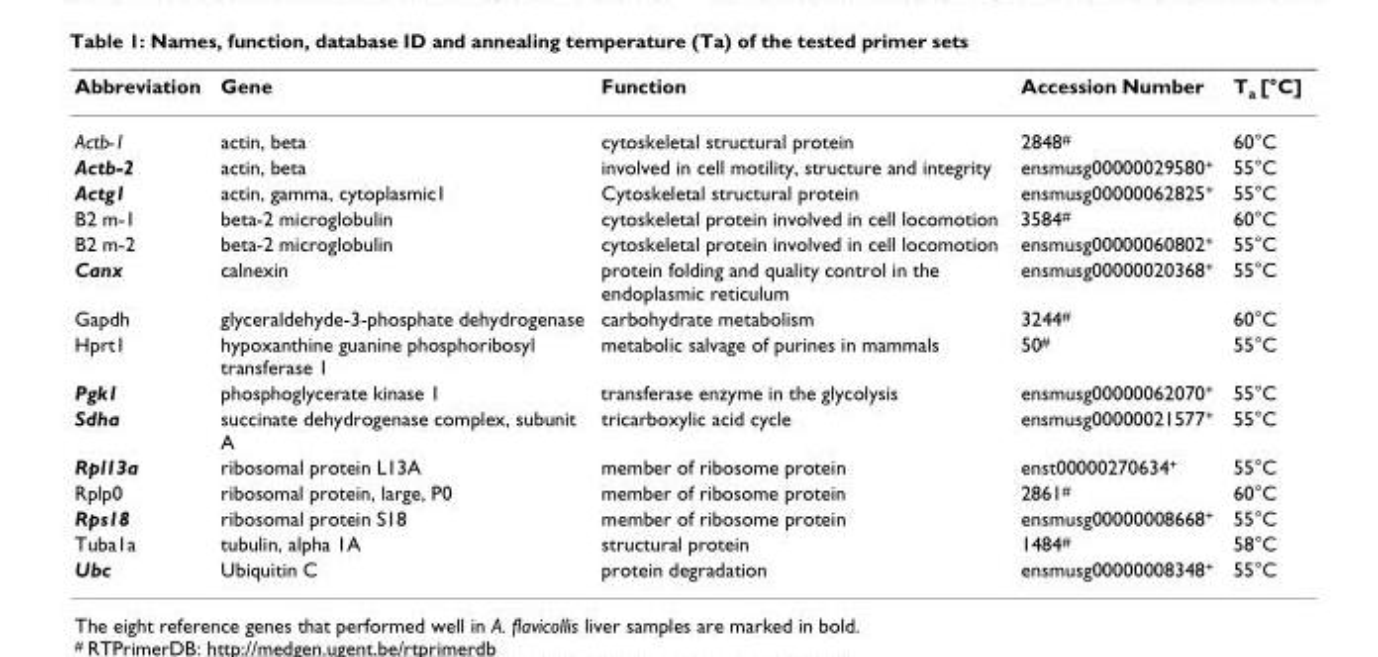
<table><thead><tr><td>Abbreviation</td><td>Gene</td><td>Function</td><td>Accession Number</td><td>T<sub>a</sub> [°C]</td></tr></thead><tbody><tr><td>Actb-1</td><td>actin, beta</td><td>cytoskeletal structural protein</td><td>2848<sup>#</sup></td><td>60°C</td></tr><tr><td>Actb-2</td><td>actin, beta</td><td>involved in cell motility, structure and integrity</td><td>ensmusg00000029580<sup>+</sup></td><td>55°C</td></tr><tr><td>Actg1</td><td>actin, gamma, cytoplasmic1</td><td>Cytoskeletal structural protein</td><td>ensmusg00000062825<sup>+</sup></td><td>55°C</td></tr><tr><td>B2 m-1</td><td>beta-2 microglobulin</td><td>cytoskeletal protein involved in cell locomotion</td><td>3584<sup>#</sup></td><td>60°C</td></tr><tr><td>B2 m-2</td><td>beta-2 microglobulin</td><td>cytoskeletal protein involved in cell locomotion</td><td>ensmusg00000060802<sup>+</sup></td><td>55°C</td></tr><tr><td>Canx</td><td>calnexin</td><td>protein folding and quality control in the endoplasmic reticulum</td><td>ensmusg00000020368<sup>+</sup></td><td>55°C</td></tr><tr><td>Gapdh</td><td>glyceraldehyde-3-phosphate dehydrogenase</td><td>carbohydrate metabolism</td><td>3244<sup>#</sup></td><td>60°C</td></tr><tr><td>Hprt1</td><td>hypoxanthine guanine phosphoribosyl transferase 1</td><td>metabolic salvage of purines in mammals</td><td>50<sup>#</sup></td><td>55°C</td></tr><tr><td>Pgk1</td><td>phosphoglycerate kinase 1</td><td>transferase enzyme in the glycolysis</td><td>ensmusg00000062070<sup>+</sup></td><td>55°C</td></tr><tr><td>Sdha</td><td>succinate dehydrogenase complex, subunit A</td><td>tricarboxylic acid cycle</td><td>ensmusg00000021577<sup>+</sup></td><td>55°C</td></tr><tr><td>Rpl13a</td><td>ribosomal protein L13A</td><td>member of ribosome protein</td><td>enst00000270634<sup>+</sup></td><td>55°C</td></tr><tr><td>Rplp0</td><td>ribosomal protein, large, P0</td><td>member of ribosome protein</td><td>2861<sup>#</sup></td><td>60°C</td></tr><tr><td>Rps18</td><td>ribosomal protein S18</td><td>member of ribosome protein</td><td>ensmusg00000008668<sup>+</sup></td><td>55°C</td></tr><tr><td>Tuba1a</td><td>tubulin, alpha 1A</td><td>structural protein</td><td>1484<sup>#</sup></td><td>58°C</td></tr><tr><td>Ubc</td><td>Ubiquitin C</td><td>protein degradation</td><td>ensmusg00000008348<sup>+</sup></td><td>55°C</td></tr></tbody></table>